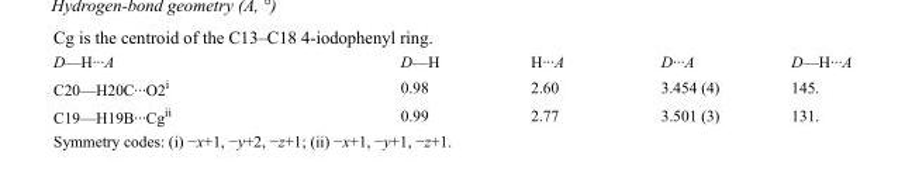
<table><tbody><tr><td>D—H···A</td><td>D—H</td><td>H···A</td><td>D···A</td><td>D—H···A</td></tr><tr><td>C20—H20C···O2<sup>i</sup></td><td>0.98</td><td>2.60</td><td>3.454 (4)</td><td>145.</td></tr><tr><td>C19—H19B···Cg<sup>ii</sup></td><td>0.99</td><td>2.77</td><td>3.501 (3)</td><td>131.</td></tr></tbody></table>